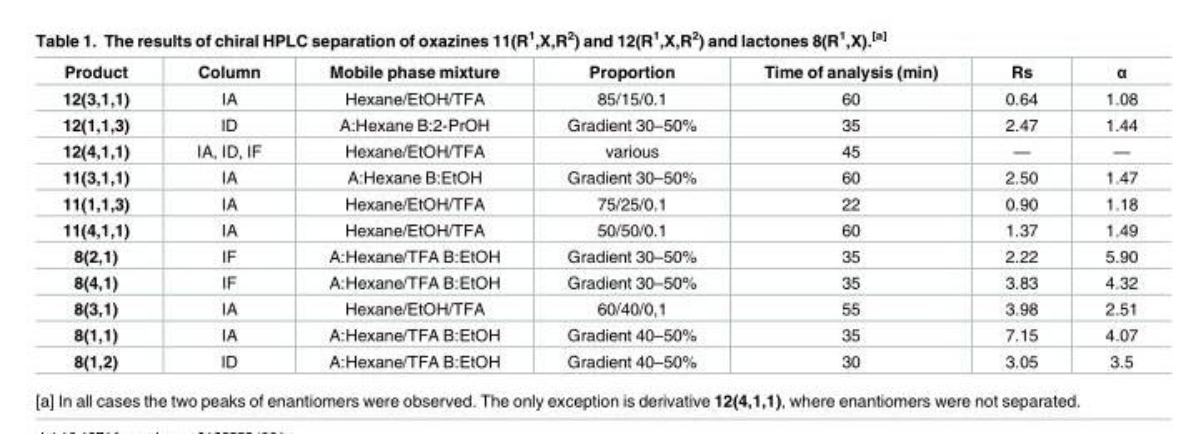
<table><thead><tr><td>Product</td><td>Column</td><td>Mobile phase mixture</td><td>Proportion</td><td>Time of analysis (min)</td><td>Rs</td><td>α</td></tr></thead><tbody><tr><td>12(3,1,1)</td><td>IA</td><td>Hexane/EtOH/TFA</td><td>85/15/0.1</td><td>60</td><td>0.64</td><td>1.08</td></tr><tr><td>12(1,1,3)</td><td>ID</td><td>A:Hexane B:2-PrOH</td><td>Gradient 30–50%</td><td>35</td><td>2.47</td><td>1.44</td></tr><tr><td>12(4,1,1)</td><td>IA, ID, IF</td><td>Hexane/EtOH/TFA</td><td>various</td><td>45</td><td>—</td><td>—</td></tr><tr><td>11(3,1,1)</td><td>IA</td><td>A:Hexane B:EtOH</td><td>Gradient 30–50%</td><td>60</td><td>2.50</td><td>1.47</td></tr><tr><td>11(1,1,3)</td><td>IA</td><td>Hexane/EtOH/TFA</td><td>75/25/0.1</td><td>22</td><td>0.90</td><td>1.18</td></tr><tr><td>11(4,1,1)</td><td>IA</td><td>Hexane/EtOH/TFA</td><td>50/50/0.1</td><td>60</td><td>1.37</td><td>1.49</td></tr><tr><td>8(2,1)</td><td>IF</td><td>A:Hexane/TFA B:EtOH</td><td>Gradient 30–50%</td><td>35</td><td>2.22</td><td>5.90</td></tr><tr><td>8(4,1)</td><td>IF</td><td>A:Hexane/TFA B:EtOH</td><td>Gradient 30–50%</td><td>35</td><td>3.83</td><td>4.32</td></tr><tr><td>8(3,1)</td><td>IA</td><td>Hexane/EtOH/TFA</td><td>60/40/0,1</td><td>55</td><td>3.98</td><td>2.51</td></tr><tr><td>8(1,1)</td><td>IA</td><td>A:Hexane/TFA B:EtOH</td><td>Gradient 40–50%</td><td>35</td><td>7.15</td><td>4.07</td></tr><tr><td>8(1,2)</td><td>ID</td><td>A:Hexane/TFA B:EtOH</td><td>Gradient 40–50%</td><td>30</td><td>3.05</td><td>3.5</td></tr></tbody></table>